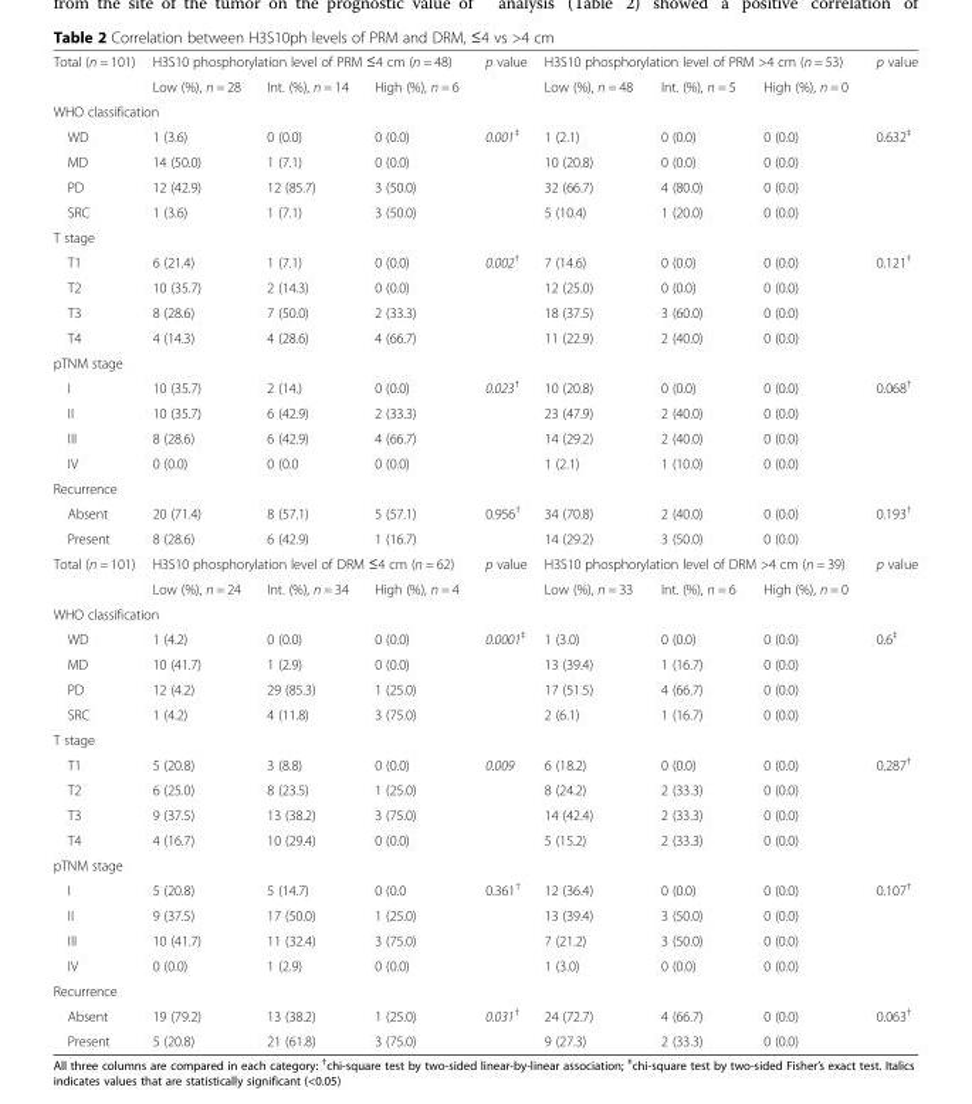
<table><tbody><tr><td rowspan="2">Total (n = 101)</td><td colspan="3">H3S10 phosphorylation level of PRM ≤4 cm (n = 48)</td><td rowspan="2">p value</td><td colspan="3">H3S10 phosphorylation level of PRM &gt;4 cm (n = 53)</td><td rowspan="2">p value</td></tr><tr><td>Low (%), n = 28</td><td>Int. (%), n = 14</td><td>High (%), n = 6</td><td>Low (%), n = 48</td><td>Int. (%), n = 5</td><td>High (%), n = 0</td></tr><tr><td colspan="9">WHO classification</td></tr><tr><td>WD</td><td>1 (3.6)</td><td>0 (0.0)</td><td>0 (0.0)</td><td rowspan="4">0.001<sup>‡</sup></td><td>1 (2.1)</td><td>0 (0.0)</td><td>0 (0.0)</td><td rowspan="4">0.632<sup>‡</sup></td></tr><tr><td>MD</td><td>14 (50.0)</td><td>1 (7.1)</td><td>0 (0.0)</td><td>10 (20.8)</td><td>0 (0.0)</td><td>0 (0.0)</td></tr><tr><td>PD</td><td>12 (42.9)</td><td>12 (85.7)</td><td>3 (50.0)</td><td>32 (66.7)</td><td>4 (80.0)</td><td>0 (0.0)</td></tr><tr><td>SRC</td><td>1 (3.6)</td><td>1 (7.1)</td><td>3 (50.0)</td><td>5 (10.4)</td><td>1 (20.0)</td><td>0 (0.0)</td></tr><tr><td colspan="9">T stage</td></tr><tr><td>T1</td><td>6 (21.4)</td><td>1 (7.1)</td><td>0 (0.0)</td><td rowspan="4">0.002<sup>†</sup></td><td>7 (14.6)</td><td>0 (0.0)</td><td>0 (0.0)</td><td rowspan="4">0.121<sup>†</sup></td></tr><tr><td>T2</td><td>10 (35.7)</td><td>2 (14.3)</td><td>0 (0.0)</td><td>12 (25.0)</td><td>0 (0.0)</td><td>0 (0.0)</td></tr><tr><td>T3</td><td>8 (28.6)</td><td>7 (50.0)</td><td>2 (33.3)</td><td>18 (37.5)</td><td>3 (60.0)</td><td>0 (0.0)</td></tr><tr><td>T4</td><td>4 (14.3)</td><td>4 (28.6)</td><td>4 (66.7)</td><td>11 (22.9)</td><td>2 (40.0)</td><td>0 (0.0)</td></tr><tr><td colspan="9">pTNM stage</td></tr><tr><td>I</td><td>10 (35.7)</td><td>2 (14.)</td><td>0 (0.0)</td><td rowspan="4">0.023<sup>†</sup></td><td>10 (20.8)</td><td>0 (0.0)</td><td>0 (0.0)</td><td rowspan="4">0.068<sup>†</sup></td></tr><tr><td>II</td><td>10 (35.7)</td><td>6 (42.9)</td><td>2 (33.3)</td><td>23 (47.9)</td><td>2 (40.0)</td><td>0 (0.0)</td></tr><tr><td>III</td><td>8 (28.6)</td><td>6 (42.9)</td><td>4 (66.7)</td><td>14 (29.2)</td><td>2 (40.0)</td><td>0 (0.0)</td></tr><tr><td>IV</td><td>0 (0.0)</td><td>0 (0.0</td><td>0 (0.0)</td><td>1 (2.1)</td><td>1 (10.0)</td><td>0 (0.0)</td></tr><tr><td colspan="9">Recurrence</td></tr><tr><td>Absent</td><td>20 (71.4)</td><td>8 (57.1)</td><td>5 (57.1)</td><td rowspan="2">0.956<sup>†</sup></td><td>34 (70.8)</td><td>2 (40.0)</td><td>0 (0.0)</td><td rowspan="2">0.193<sup>†</sup></td></tr><tr><td>Present</td><td>8 (28.6)</td><td>6 (42.9)</td><td>1 (16.7)</td><td>14 (29.2)</td><td>3 (50.0)</td><td>0 (0.0)</td></tr><tr><td rowspan="2">Total (n = 101)</td><td colspan="3">H3S10 phosphorylation level of DRM ≤4 cm (n = 62)</td><td rowspan="2">p value</td><td colspan="3">H3S10 phosphorylation level of DRM &gt;4 cm (n = 39)</td><td rowspan="2">p value</td></tr><tr><td>Low (%), n = 24</td><td>Int. (%), n = 34</td><td>High (%), n = 4</td><td>Low (%), n = 33</td><td>Int. (%), n = 6</td><td>High (%), n = 0</td></tr><tr><td colspan="9">WHO classification</td></tr><tr><td>WD</td><td>1 (4.2)</td><td>0 (0.0)</td><td>0 (0.0)</td><td rowspan="4">0.0001<sup>‡</sup></td><td>1 (3.0)</td><td>0 (0.0)</td><td>0 (0.0)</td><td rowspan="4">0.6<sup>‡</sup></td></tr><tr><td>MD</td><td>10 (41.7)</td><td>1 (2.9)</td><td>0 (0.0)</td><td>13 (39.4)</td><td>1 (16.7)</td><td>0 (0.0)</td></tr><tr><td>PD</td><td>12 (4.2)</td><td>29 (85.3)</td><td>1 (25.0)</td><td>17 (51.5)</td><td>4 (66.7)</td><td>0 (0.0)</td></tr><tr><td>SRC</td><td>1 (4.2)</td><td>4 (11.8)</td><td>3 (75.0)</td><td>2 (6.1)</td><td>1 (16.7)</td><td>0 (0.0)</td></tr><tr><td colspan="9">T stage</td></tr><tr><td>T1</td><td>5 (20.8)</td><td>3 (8.8)</td><td>0 (0.0)</td><td rowspan="4">0.009</td><td>6 (18.2)</td><td>0 (0.0)</td><td>0 (0.0)</td><td rowspan="4">0.287<sup>†</sup></td></tr><tr><td>T2</td><td>6 (25.0)</td><td>8 (23.5)</td><td>1 (25.0)</td><td>8 (24.2)</td><td>2 (33.3)</td><td>0 (0.0)</td></tr><tr><td>T3</td><td>9 (37.5)</td><td>13 (38.2)</td><td>3 (75.0)</td><td>14 (42.4)</td><td>2 (33.3)</td><td>0 (0.0)</td></tr><tr><td>T4</td><td>4 (16.7)</td><td>10 (29.4)</td><td>0 (0.0)</td><td>5 (15.2)</td><td>2 (33.3)</td><td>0 (0.0)</td></tr><tr><td colspan="9">pTNM stage</td></tr><tr><td>I</td><td>5 (20.8)</td><td>5 (14.7)</td><td>0 (0.0</td><td rowspan="4">0.361<sup>†</sup></td><td>12 (36.4)</td><td>0 (0.0)</td><td>0 (0.0)</td><td rowspan="4">0.107<sup>†</sup></td></tr><tr><td>II</td><td>9 (37.5)</td><td>17 (50.0)</td><td>1 (25.0)</td><td>13 (39.4)</td><td>3 (50.0)</td><td>0 (0.0)</td></tr><tr><td>III</td><td>10 (41.7)</td><td>11 (32.4)</td><td>3 (75.0)</td><td>7 (21.2)</td><td>3 (50.0)</td><td>0 (0.0)</td></tr><tr><td>IV</td><td>0 (0.0)</td><td>1 (2.9)</td><td>0 (0.0)</td><td>1 (3.0)</td><td>0 (0.0)</td><td>0 (0.0)</td></tr><tr><td colspan="9">Recurrence</td></tr><tr><td>Absent</td><td>19 (79.2)</td><td>13 (38.2)</td><td>1 (25.0)</td><td rowspan="2">0.031<sup>†</sup></td><td>24 (72.7)</td><td>4 (66.7)</td><td>0 (0.0)</td><td rowspan="2">0.063<sup>†</sup></td></tr><tr><td>Present</td><td>5 (20.8)</td><td>21 (61.8)</td><td>3 (75.0)</td><td>9 (27.3)</td><td>2 (33.3)</td><td>0 (0.0)</td></tr></tbody></table>